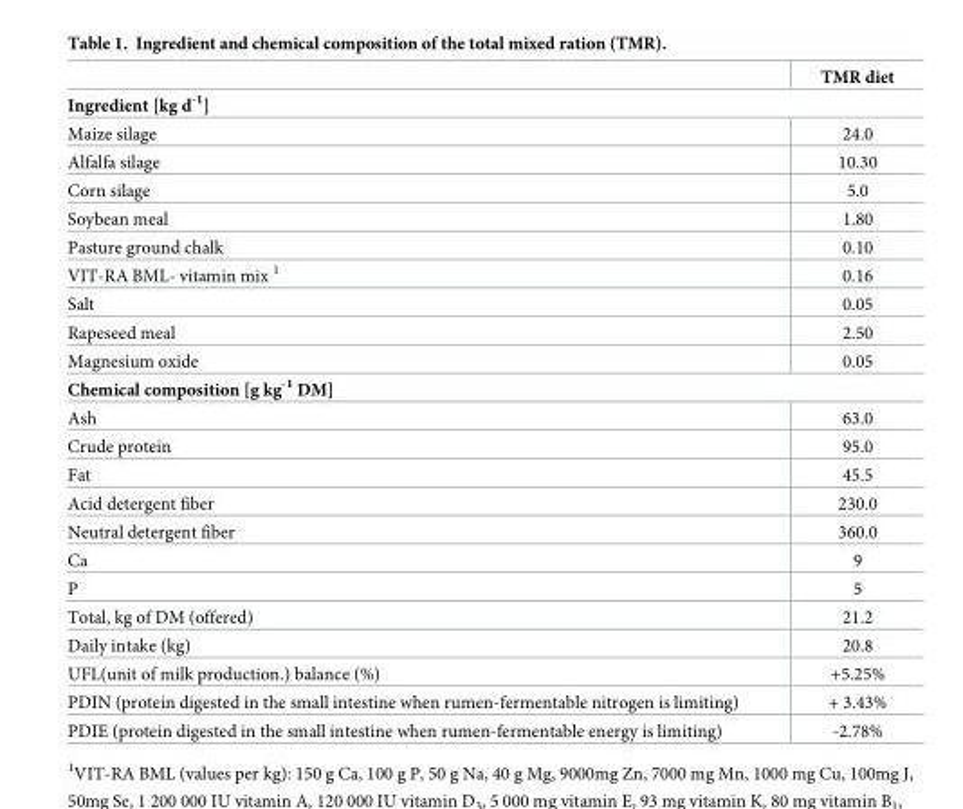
<table><thead><tr><td></td><td>TMR diet</td></tr></thead><tbody><tr><td colspan="2">Ingredient [kg d<sup>-1</sup>]</td></tr><tr><td>Maize silage</td><td>24.0</td></tr><tr><td>Alfalfa silage</td><td>10.30</td></tr><tr><td>Corn silage</td><td>5.0</td></tr><tr><td>Soybean meal</td><td>1.80</td></tr><tr><td>Pasture ground chalk</td><td>0.10</td></tr><tr><td>VIT-RA BML- vitamin mix <sup>1</sup></td><td>0.16</td></tr><tr><td>Salt</td><td>0.05</td></tr><tr><td>Rapeseed meal</td><td>2.50</td></tr><tr><td>Magnesium oxide</td><td>0.05</td></tr><tr><td colspan="2">Chemical composition [g kg<sup>-1</sup> DM]</td></tr><tr><td>Ash</td><td>63.0</td></tr><tr><td>Crude protein</td><td>95.0</td></tr><tr><td>Fat</td><td>45.5</td></tr><tr><td>Acid detergent fiber</td><td>230.0</td></tr><tr><td>Neutral detergent fiber</td><td>360.0</td></tr><tr><td>Ca</td><td>9</td></tr><tr><td>P</td><td>5</td></tr><tr><td>Total, kg of DM (offered)</td><td>21.2</td></tr><tr><td>Daily intake (kg)</td><td>20.8</td></tr><tr><td>UFL(unit of milk production.) balance (%)</td><td>+5.25%</td></tr><tr><td>PDIN (protein digested in the small intestine when rumen-fermentable nitrogen is limiting)</td><td>+ 3.43%</td></tr><tr><td>PDIE (protein digested in the small intestine when rumen-fermentable energy is limiting)</td><td>-2.78%</td></tr></tbody></table>